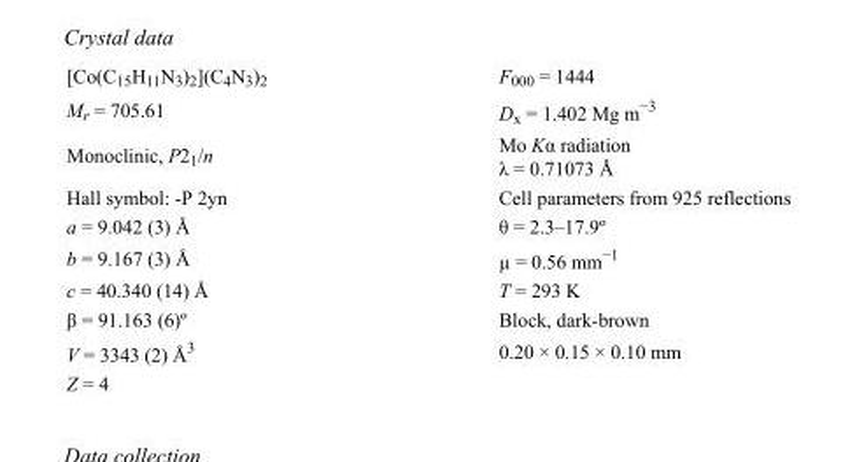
<table><tbody><tr><td>[Co(C<sub>15</sub>H<sub>11</sub>N<sub>3</sub>)<sub>2</sub>](C<sub>4</sub>N<sub>3</sub>)<sub>2</sub></td><td>F000 = 1444</td></tr><tr><td>M<sub>r</sub> = 705.61</td><td>D<sub>x</sub> = 1.402 Mg m<sup>−3</sup></td></tr><tr><td>Monoclinic, P2<sub>1</sub>/n</td><td>Mo Kα radiation λ = 0.71073 Å</td></tr><tr><td>Hall symbol: -P 2yn</td><td>Cell parameters from 925 reflections</td></tr><tr><td>a = 9.042 (3) Å</td><td>θ = 2.3–17.9º</td></tr><tr><td>b = 9.167 (3) Å</td><td>µ = 0.56 mm<sup>−1</sup></td></tr><tr><td>c = 40.340 (14) Å</td><td>T = 293 K</td></tr><tr><td>β = 91.163 (6)º</td><td>Block, dark-brown</td></tr><tr><td>V = 3343 (2) Å<sup>3</sup></td><td>0.20 × 0.15 × 0.10 mm</td></tr><tr><td>Z = 4</td><td></td></tr></tbody></table>